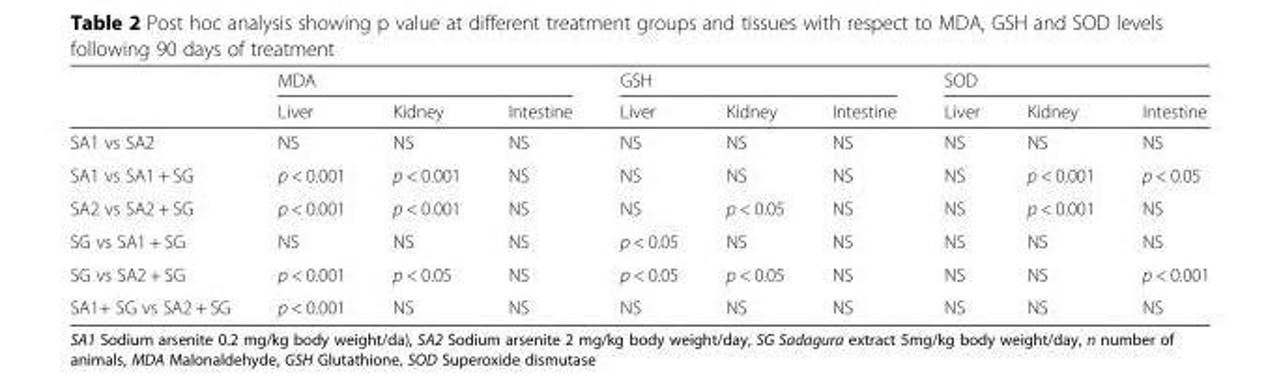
<table><thead><tr><td rowspan="2"></td><td colspan="3">MDA</td><td colspan="3">GSH</td><td colspan="3">SOD</td></tr><tr><td>Liver</td><td>Kidney</td><td>Intestine</td><td>Liver</td><td>Kidney</td><td>Intestine</td><td>Liver</td><td>Kidney</td><td>Intestine</td></tr></thead><tbody><tr><td>SA1 vs SA2</td><td>NS</td><td>NS</td><td>NS</td><td>NS</td><td>NS</td><td>NS</td><td>NS</td><td>NS</td><td>NS</td></tr><tr><td>SA1 vs SA1 + SG</td><td>p &lt; 0.001</td><td>p &lt; 0.001</td><td>NS</td><td>NS</td><td>NS</td><td>NS</td><td>NS</td><td>p &lt; 0.001</td><td>p &lt; 0.05</td></tr><tr><td>SA2 vs SA2 + SG</td><td>p &lt; 0.001</td><td>p &lt; 0.001</td><td>NS</td><td>NS</td><td>p &lt; 0.05</td><td>NS</td><td>NS</td><td>p &lt; 0.001</td><td>NS</td></tr><tr><td>SG vs SA1 + SG</td><td>NS</td><td>NS</td><td>NS</td><td>p &lt; 0.05</td><td>NS</td><td>NS</td><td>NS</td><td>NS</td><td>NS</td></tr><tr><td>SG vs SA2 + SG</td><td>p &lt; 0.001</td><td>p &lt; 0.05</td><td>NS</td><td>p &lt; 0.05</td><td>p &lt; 0.05</td><td>NS</td><td>NS</td><td>NS</td><td>p &lt; 0.001</td></tr><tr><td>SA1+ SG vs SA2 + SG</td><td>p &lt; 0.001</td><td>NS</td><td>NS</td><td>NS</td><td>NS</td><td>NS</td><td>NS</td><td>NS</td><td>NS</td></tr></tbody></table>